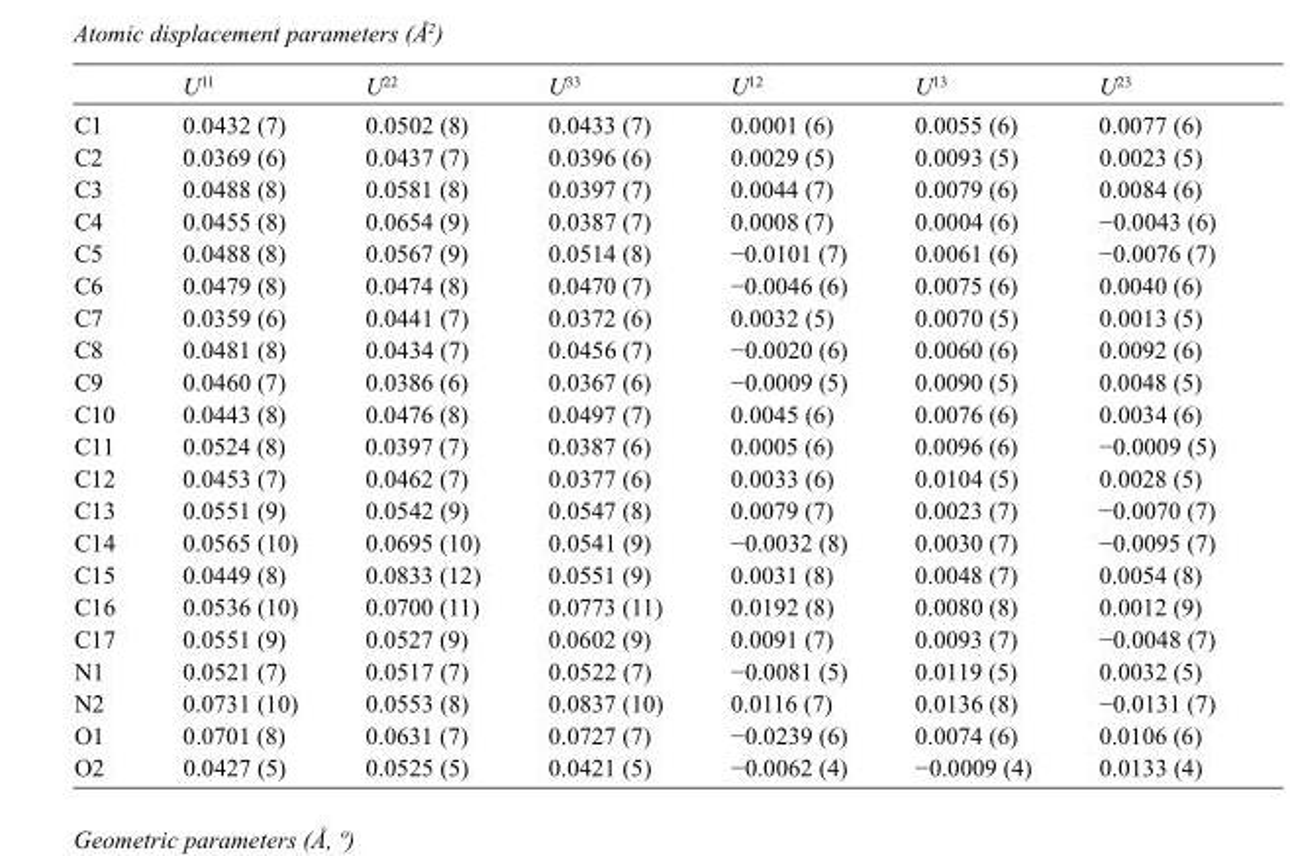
<table><thead><tr><td></td><td>U<sup>11</sup></td><td>U<sup>22</sup></td><td>U<sup>33</sup></td><td>U<sup>12</sup></td><td>U<sup>13</sup></td><td>U<sup>23</sup></td></tr></thead><tbody><tr><td>C1</td><td>0.0432 (7)</td><td>0.0502 (8)</td><td>0.0433 (7)</td><td>0.0001 (6)</td><td>0.0055 (6)</td><td>0.0077 (6)</td></tr><tr><td>C2</td><td>0.0369 (6)</td><td>0.0437 (7)</td><td>0.0396 (6)</td><td>0.0029 (5)</td><td>0.0093 (5)</td><td>0.0023 (5)</td></tr><tr><td>C3</td><td>0.0488 (8)</td><td>0.0581 (8)</td><td>0.0397 (7)</td><td>0.0044 (7)</td><td>0.0079 (6)</td><td>0.0084 (6)</td></tr><tr><td>C4</td><td>0.0455 (8)</td><td>0.0654 (9)</td><td>0.0387 (7)</td><td>0.0008 (7)</td><td>0.0004 (6)</td><td>−0.0043 (6)</td></tr><tr><td>C5</td><td>0.0488 (8)</td><td>0.0567 (9)</td><td>0.0514 (8)</td><td>−0.0101 (7)</td><td>0.0061 (6)</td><td>−0.0076 (7)</td></tr><tr><td>C6</td><td>0.0479 (8)</td><td>0.0474 (8)</td><td>0.0470 (7)</td><td>−0.0046 (6)</td><td>0.0075 (6)</td><td>0.0040 (6)</td></tr><tr><td>C7</td><td>0.0359 (6)</td><td>0.0441 (7)</td><td>0.0372 (6)</td><td>0.0032 (5)</td><td>0.0070 (5)</td><td>0.0013 (5)</td></tr><tr><td>C8</td><td>0.0481 (8)</td><td>0.0434 (7)</td><td>0.0456 (7)</td><td>−0.0020 (6)</td><td>0.0060 (6)</td><td>0.0092 (6)</td></tr><tr><td>C9</td><td>0.0460 (7)</td><td>0.0386 (6)</td><td>0.0367 (6)</td><td>−0.0009 (5)</td><td>0.0090 (5)</td><td>0.0048 (5)</td></tr><tr><td>C10</td><td>0.0443 (8)</td><td>0.0476 (8)</td><td>0.0497 (7)</td><td>0.0045 (6)</td><td>0.0076 (6)</td><td>0.0034 (6)</td></tr><tr><td>C11</td><td>0.0524 (8)</td><td>0.0397 (7)</td><td>0.0387 (6)</td><td>0.0005 (6)</td><td>0.0096 (6)</td><td>−0.0009 (5)</td></tr><tr><td>C12</td><td>0.0453 (7)</td><td>0.0462 (7)</td><td>0.0377 (6)</td><td>0.0033 (6)</td><td>0.0104 (5)</td><td>0.0028 (5)</td></tr><tr><td>C13</td><td>0.0551 (9)</td><td>0.0542 (9)</td><td>0.0547 (8)</td><td>0.0079 (7)</td><td>0.0023 (7)</td><td>−0.0070 (7)</td></tr><tr><td>C14</td><td>0.0565 (10)</td><td>0.0695 (10)</td><td>0.0541 (9)</td><td>−0.0032 (8)</td><td>0.0030 (7)</td><td>−0.0095 (7)</td></tr><tr><td>C15</td><td>0.0449 (8)</td><td>0.0833 (12)</td><td>0.0551 (9)</td><td>0.0031 (8)</td><td>0.0048 (7)</td><td>0.0054 (8)</td></tr><tr><td>C16</td><td>0.0536 (10)</td><td>0.0700 (11)</td><td>0.0773 (11)</td><td>0.0192 (8)</td><td>0.0080 (8)</td><td>0.0012 (9)</td></tr><tr><td>C17</td><td>0.0551 (9)</td><td>0.0527 (9)</td><td>0.0602 (9)</td><td>0.0091 (7)</td><td>0.0093 (7)</td><td>−0.0048 (7)</td></tr><tr><td>N1</td><td>0.0521 (7)</td><td>0.0517 (7)</td><td>0.0522 (7)</td><td>−0.0081 (5)</td><td>0.0119 (5)</td><td>0.0032 (5)</td></tr><tr><td>N2</td><td>0.0731 (10)</td><td>0.0553 (8)</td><td>0.0837 (10)</td><td>0.0116 (7)</td><td>0.0136 (8)</td><td>−0.0131 (7)</td></tr><tr><td>O1</td><td>0.0701 (8)</td><td>0.0631 (7)</td><td>0.0727 (7)</td><td>−0.0239 (6)</td><td>0.0074 (6)</td><td>0.0106 (6)</td></tr><tr><td>O2</td><td>0.0427 (5)</td><td>0.0525 (5)</td><td>0.0421 (5)</td><td>−0.0062 (4)</td><td>−0.0009 (4)</td><td>0.0133 (4)</td></tr></tbody></table>